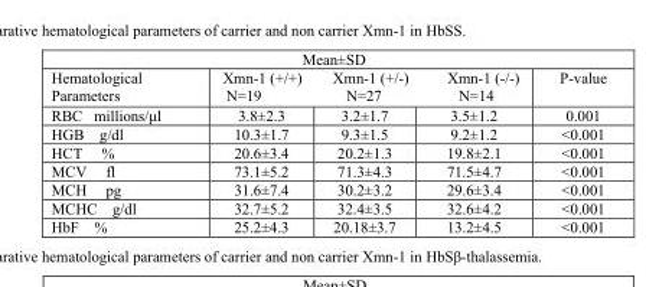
<table><thead><tr><td colspan="5">Mean±SD</td></tr><tr><td>Hematological Parameters</td><td>Xmn-1 (+/+) N=19</td><td>Xmn-1 (+/-) N=27</td><td>Xmn-1 (-/-) N=14</td><td>P-value</td></tr></thead><tbody><tr><td>RBC millions/μl</td><td>3.8±2.3</td><td>3.2±1.7</td><td>3.5±1.2</td><td>0.001</td></tr><tr><td>HGB g/dl</td><td>10.3±1.7</td><td>9.3±1.5</td><td>9.2±1.2</td><td>&lt;0.001</td></tr><tr><td>HCT %</td><td>20.6±3.4</td><td>20.2±1.3</td><td>19.8±2.1</td><td>&lt;0.001</td></tr><tr><td>MCV fl</td><td>73.1±5.2</td><td>71.3±4.3</td><td>71.5±4.7</td><td>&lt;0.001</td></tr><tr><td>MCH pg</td><td>31.6±7.4</td><td>30.2±3.2</td><td>29.6±3.4</td><td>&lt;0.001</td></tr><tr><td>MCHC g/dl</td><td>32.7±5.2</td><td>32.4±3.5</td><td>32.6±4.2</td><td>&lt;0.001</td></tr><tr><td>HbF %</td><td>25.2±4.3</td><td>20.18±3.7</td><td>13.2±4.5</td><td>&lt;0.001</td></tr></tbody></table>